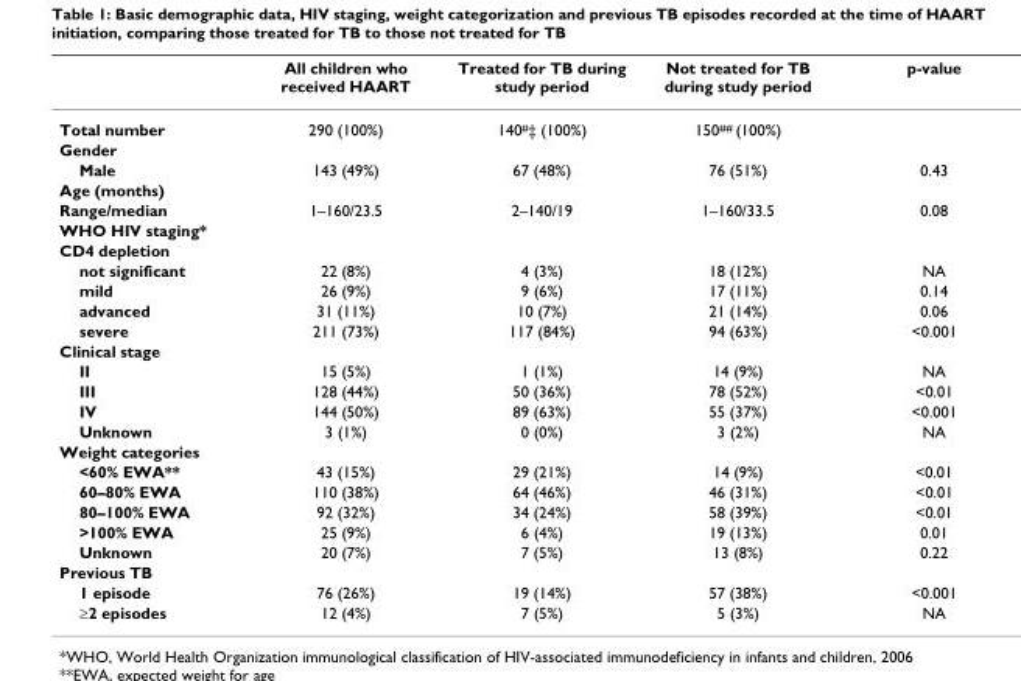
<table><thead><tr><td></td><td>All children who received HAART</td><td>Treated for TB during study period</td><td>Not treated for TB during study period</td><td>p-value</td></tr></thead><tbody><tr><td>Total number</td><td>290 (100%)</td><td>140<sup>#</sup>‡ (100%)</td><td>150<sup>##</sup> (100%)</td><td></td></tr><tr><td colspan="5">Gender</td></tr><tr><td>Male</td><td>143 (49%)</td><td>67 (48%)</td><td>76 (51%)</td><td>0.43</td></tr><tr><td colspan="5">Age (months)</td></tr><tr><td>Range/median</td><td>1–160/23.5</td><td>2–140/19</td><td>1–160/33.5</td><td>0.08</td></tr><tr><td colspan="5">WHO HIV staging*</td></tr><tr><td colspan="5">CD4 depletion</td></tr><tr><td>not significant</td><td>22 (8%)</td><td>4 (3%)</td><td>18 (12%)</td><td>NA</td></tr><tr><td>mild</td><td>26 (9%)</td><td>9 (6%)</td><td>17 (11%)</td><td>0.14</td></tr><tr><td>advanced</td><td>31 (11%)</td><td>10 (7%)</td><td>21 (14%)</td><td>0.06</td></tr><tr><td>severe</td><td>211 (73%)</td><td>117 (84%)</td><td>94 (63%)</td><td>&lt;0.001</td></tr><tr><td colspan="5">Clinical stage</td></tr><tr><td>II</td><td>15 (5%)</td><td>1 (1%)</td><td>14 (9%)</td><td>NA</td></tr><tr><td>III</td><td>128 (44%)</td><td>50 (36%)</td><td>78 (52%)</td><td>&lt;0.01</td></tr><tr><td>IV</td><td>144 (50%)</td><td>89 (63%)</td><td>55 (37%)</td><td>&lt;0.001</td></tr><tr><td>Unknown</td><td>3 (1%)</td><td>0 (0%)</td><td>3 (2%)</td><td>NA</td></tr><tr><td colspan="5">Weight categories</td></tr><tr><td>&lt;60% EWA**</td><td>43 (15%)</td><td>29 (21%)</td><td>14 (9%)</td><td>&lt;0.01</td></tr><tr><td>60–80% EWA</td><td>110 (38%)</td><td>64 (46%)</td><td>46 (31%)</td><td>&lt;0.01</td></tr><tr><td>80–100% EWA</td><td>92 (32%)</td><td>34 (24%)</td><td>58 (39%)</td><td>&lt;0.01</td></tr><tr><td>&gt;100% EWA</td><td>25 (9%)</td><td>6 (4%)</td><td>19 (13%)</td><td>0.01</td></tr><tr><td>Unknown</td><td>20 (7%)</td><td>7 (5%)</td><td>13 (8%)</td><td>0.22</td></tr><tr><td colspan="5">Previous TB</td></tr><tr><td>1 episode</td><td>76 (26%)</td><td>19 (14%)</td><td>57 (38%)</td><td>&lt;0.001</td></tr><tr><td>≥2 episodes</td><td>12 (4%)</td><td>7 (5%)</td><td>5 (3%)</td><td>NA</td></tr></tbody></table>